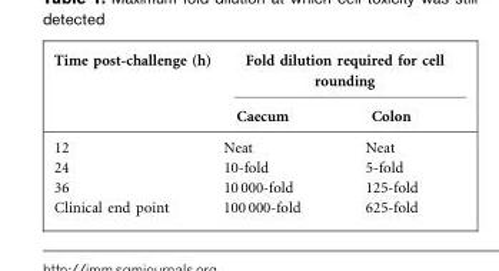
<table><thead><tr><td rowspan="2">Time post-challenge (h)</td><td colspan="2">Fold dilution required for cell rounding</td></tr><tr><td>Caecum</td><td>Colon</td></tr></thead><tbody><tr><td>12</td><td>Neat</td><td>Neat</td></tr><tr><td>24</td><td>10-fold</td><td>5-fold</td></tr><tr><td>36</td><td>10 000-fold</td><td>125-fold</td></tr><tr><td>Clinical end point</td><td>100 000-fold</td><td>625-fold</td></tr></tbody></table>